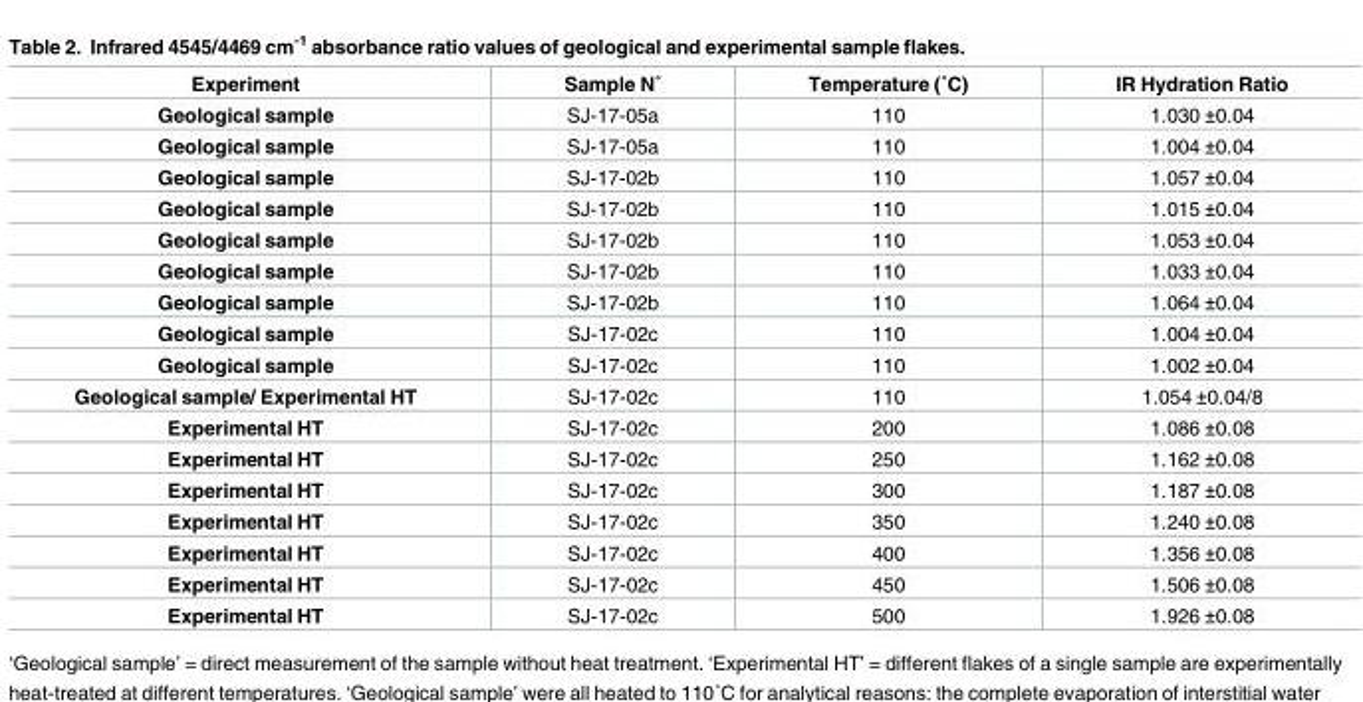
<table><thead><tr><td>Experiment</td><td>Sample N˚</td><td>Temperature (˚C)</td><td>IR Hydration Ratio</td></tr></thead><tbody><tr><td>Geological sample</td><td>SJ-17-05a</td><td>110</td><td>1.030 ±0.04</td></tr><tr><td>Geological sample</td><td>SJ-17-05a</td><td>110</td><td>1.004 ±0.04</td></tr><tr><td>Geological sample</td><td>SJ-17-02b</td><td>110</td><td>1.057 ±0.04</td></tr><tr><td>Geological sample</td><td>SJ-17-02b</td><td>110</td><td>1.015 ±0.04</td></tr><tr><td>Geological sample</td><td>SJ-17-02b</td><td>110</td><td>1.053 ±0.04</td></tr><tr><td>Geological sample</td><td>SJ-17-02b</td><td>110</td><td>1.033 ±0.04</td></tr><tr><td>Geological sample</td><td>SJ-17-02b</td><td>110</td><td>1.064 ±0.04</td></tr><tr><td>Geological sample</td><td>SJ-17-02c</td><td>110</td><td>1.004 ±0.04</td></tr><tr><td>Geological sample</td><td>SJ-17-02c</td><td>110</td><td>1.002 ±0.04</td></tr><tr><td>Geological sample/ Experimental HT</td><td>SJ-17-02c</td><td>110</td><td>1.054 ±0.04/8</td></tr><tr><td>Experimental HT</td><td>SJ-17-02c</td><td>200</td><td>1.086 ±0.08</td></tr><tr><td>Experimental HT</td><td>SJ-17-02c</td><td>250</td><td>1.162 ±0.08</td></tr><tr><td>Experimental HT</td><td>SJ-17-02c</td><td>300</td><td>1.187 ±0.08</td></tr><tr><td>Experimental HT</td><td>SJ-17-02c</td><td>350</td><td>1.240 ±0.08</td></tr><tr><td>Experimental HT</td><td>SJ-17-02c</td><td>400</td><td>1.356 ±0.08</td></tr><tr><td>Experimental HT</td><td>SJ-17-02c</td><td>450</td><td>1.506 ±0.08</td></tr><tr><td>Experimental HT</td><td>SJ-17-02c</td><td>500</td><td>1.926 ±0.08</td></tr></tbody></table>